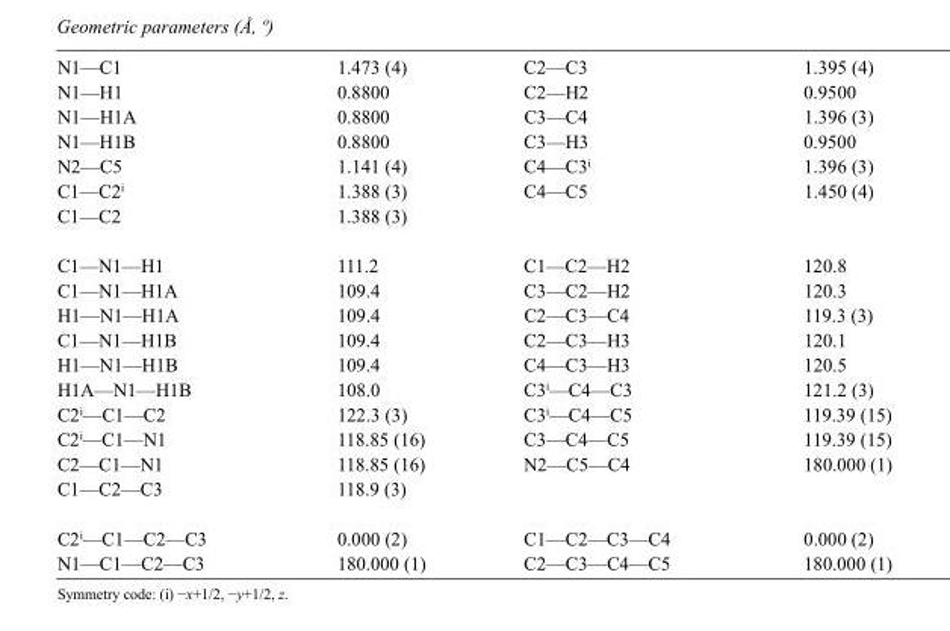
<table><tbody><tr><td>N1—C1</td><td>1.473 (4)</td><td>C2—C3</td><td>1.395 (4)</td></tr><tr><td>N1—H1</td><td>0.8800</td><td>C2—H2</td><td>0.9500</td></tr><tr><td>N1—H1A</td><td>0.8800</td><td>C3—C4</td><td>1.396 (3)</td></tr><tr><td>N1—H1B</td><td>0.8800</td><td>C3—H3</td><td>0.9500</td></tr><tr><td>N2—C5</td><td>1.141 (4)</td><td>C4—C3<sup>i</sup></td><td>1.396 (3)</td></tr><tr><td>C1—C2<sup>i</sup></td><td>1.388 (3)</td><td>C4—C5</td><td>1.450 (4)</td></tr><tr><td>C1—C2</td><td>1.388 (3)</td><td></td><td></td></tr><tr><td>C1—N1—H1</td><td>111.2</td><td>C1—C2—H2</td><td>120.8</td></tr><tr><td>C1—N1—H1A</td><td>109.4</td><td>C3—C2—H2</td><td>120.3</td></tr><tr><td>H1—N1—H1A</td><td>109.4</td><td>C2—C3—C4</td><td>119.3 (3)</td></tr><tr><td>C1—N1—H1B</td><td>109.4</td><td>C2—C3—H3</td><td>120.1</td></tr><tr><td>H1—N1—H1B</td><td>109.4</td><td>C4—C3—H3</td><td>120.5</td></tr><tr><td>H1A—N1—H1B</td><td>108.0</td><td>C3<sup>i</sup>—C4—C3</td><td>121.2 (3)</td></tr><tr><td>C2<sup>i</sup>—C1—C2</td><td>122.3 (3)</td><td>C3<sup>i</sup>—C4—C5</td><td>119.39 (15)</td></tr><tr><td>C2<sup>i</sup>—C1—N1</td><td>118.85 (16)</td><td>C3—C4—C5</td><td>119.39 (15)</td></tr><tr><td>C2—C1—N1</td><td>118.85 (16)</td><td>N2—C5—C4</td><td>180.000 (1)</td></tr><tr><td>C1—C2—C3</td><td>118.9 (3)</td><td></td><td></td></tr><tr><td>C2<sup>i</sup>—C1—C2—C3</td><td>0.000 (2)</td><td>C1—C2—C3—C4</td><td>0.000 (2)</td></tr><tr><td>N1—C1—C2—C3</td><td>180.000 (1)</td><td>C2—C3—C4—C5</td><td>180.000 (1)</td></tr></tbody></table>